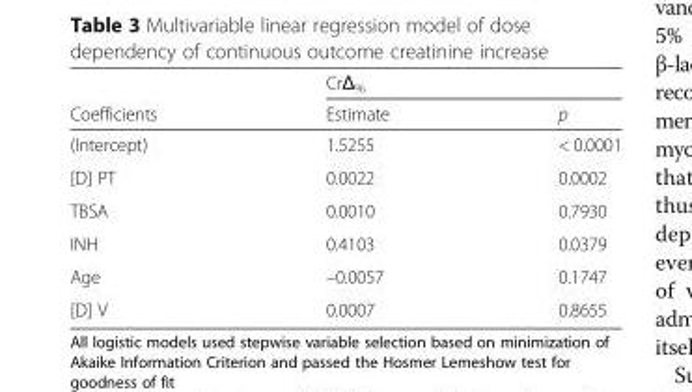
<table><thead><tr><td rowspan="2">Coefficients</td><td colspan="2">CrΔ<sub>%</sub></td></tr><tr><td>Estimate</td><td>p</td></tr></thead><tbody><tr><td>(Intercept)</td><td>1.5255</td><td>&lt; 0.0001</td></tr><tr><td>[D] PT</td><td>0.0022</td><td>0.0002</td></tr><tr><td>TBSA</td><td>0.0010</td><td>0.7930</td></tr><tr><td>INH</td><td>0.4103</td><td>0.0379</td></tr><tr><td>Age</td><td>–0.0057</td><td>0.1747</td></tr><tr><td>[D] V</td><td>0.0007</td><td>0.8655</td></tr></tbody></table>